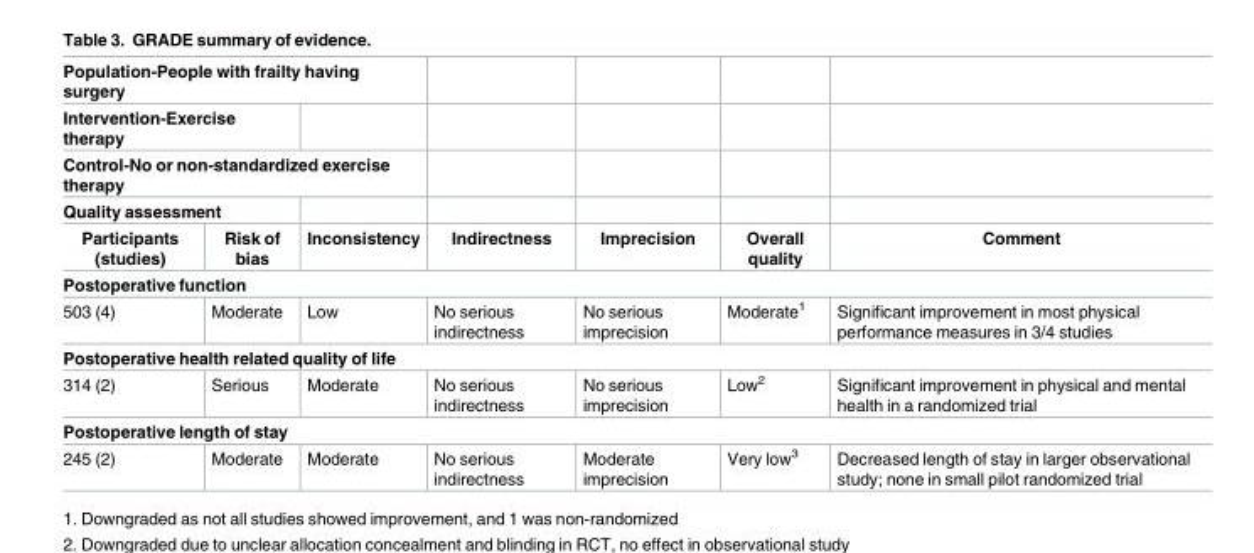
<table><thead><tr><td colspan="3">Population-People with frailty having surgery</td><td rowspan="5">Indirectness</td><td rowspan="5">Imprecision</td><td rowspan="5">Overall quality</td><td rowspan="5">Comment</td></tr><tr><td colspan="2">Intervention-Exercise therapy</td><td></td></tr><tr><td colspan="3">Control-No or non-standardized exercise therapy</td></tr><tr><td colspan="2">Quality assessment</td><td rowspan="2">Inconsistency</td></tr><tr><td>Participants (studies)</td><td>Risk of bias</td></tr></thead><tbody><tr><td colspan="7">Postoperative function</td></tr><tr><td>503 (4)</td><td>Moderate</td><td>Low</td><td>No serious indirectness</td><td>No serious imprecision</td><td>Moderate<sup>1</sup></td><td>Significant improvement in most physical performance measures in 3/4 studies</td></tr><tr><td colspan="7">Postoperative health related quality of life</td></tr><tr><td>314 (2)</td><td>Serious</td><td>Moderate</td><td>No serious indirectness</td><td>No serious imprecision</td><td>Low<sup>2</sup></td><td>Significant improvement in physical and mental health in a randomized trial</td></tr><tr><td colspan="7">Postoperative length of stay</td></tr><tr><td>245 (2)</td><td>Moderate</td><td>Moderate</td><td>No serious indirectness</td><td>Moderate imprecision</td><td>Very low<sup>3</sup></td><td>Decreased length of stay in larger observational study; none in small pilot randomized trial</td></tr></tbody></table>